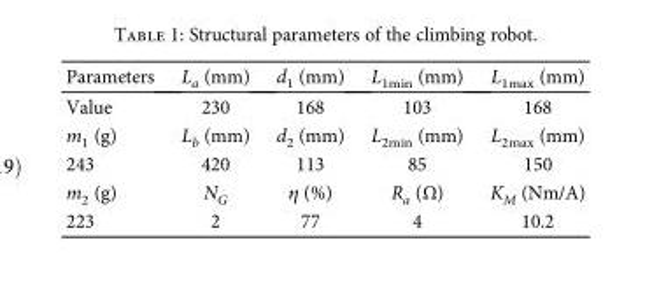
<table><thead><tr><td>Parameters</td><td>L<sub>a</sub> (mm)</td><td>d<sub>1</sub> (mm)</td><td>L<sub>1min</sub> (mm)</td><td>L<sub>1max</sub> (mm)</td></tr></thead><tbody><tr><td>Value</td><td>230</td><td>168</td><td>103</td><td>168</td></tr><tr><td>m<sub>1</sub> (g)</td><td>L<sub>b</sub> (mm)</td><td>d<sub>2</sub> (mm)</td><td>L<sub>2min</sub> (mm)</td><td>L<sub>2max</sub> (mm)</td></tr><tr><td>243</td><td>420</td><td>113</td><td>85</td><td>150</td></tr><tr><td>m<sub>2</sub> (g)</td><td>N<sub>G</sub></td><td>η (%)</td><td>R<sub>a</sub> (Ω)</td><td>K<sub>M</sub> (Nm/A)</td></tr><tr><td>223</td><td>2</td><td>77</td><td>4</td><td>10.2</td></tr></tbody></table>